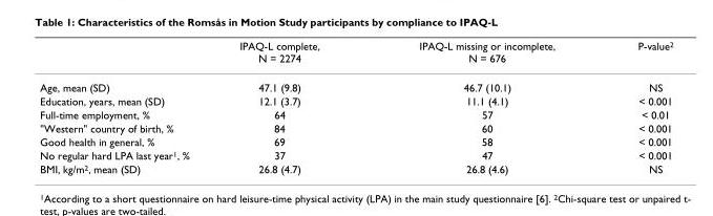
<table><thead><tr><td></td><td>IPAQ-L complete, N = 2274</td><td>IPAQ-L missing or incomplete, N = 676</td><td>P-value<sup>2</sup></td></tr></thead><tbody><tr><td>Age, mean (SD)</td><td>47.1 (9.8)</td><td>46.7 (10.1)</td><td>NS</td></tr><tr><td>Education, years, mean (SD)</td><td>12.1 (3.7)</td><td>11.1 (4.1)</td><td>&lt; 0.001</td></tr><tr><td>Full-time employment, %</td><td>64</td><td>57</td><td>&lt; 0.01</td></tr><tr><td>&quot;Western&quot; country of birth, %</td><td>84</td><td>60</td><td>&lt; 0.001</td></tr><tr><td>Good health in general, %</td><td>69</td><td>58</td><td>&lt; 0.001</td></tr><tr><td>No regular hard LPA last year<sup>1</sup>, %</td><td>37</td><td>47</td><td>&lt; 0.001</td></tr><tr><td>BMI, kg/m<sup>2</sup>, mean (SD)</td><td>26.8 (4.7)</td><td>26.8 (4.6)</td><td>NS</td></tr></tbody></table>